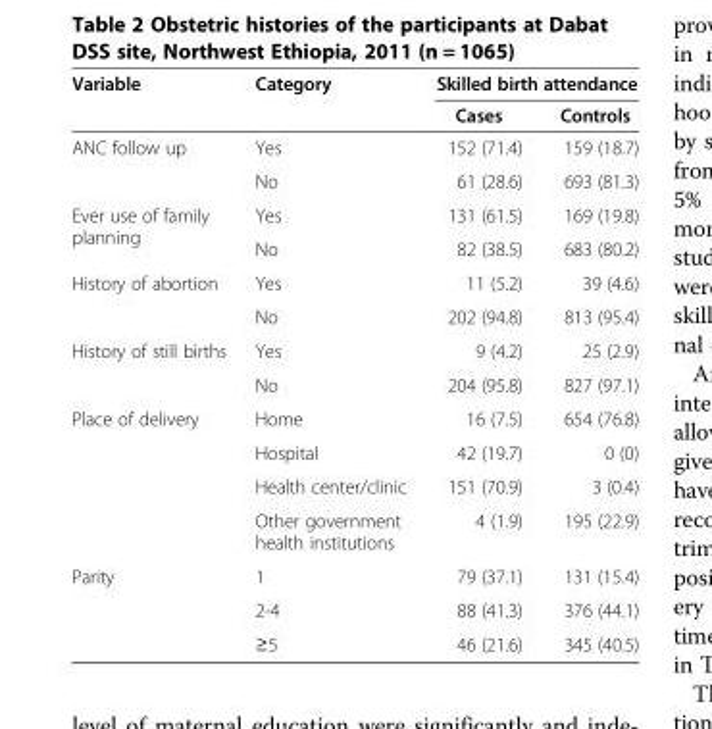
<table><thead><tr><td rowspan="2">Variable</td><td rowspan="2">Category</td><td colspan="2">Skilled birth attendance</td></tr><tr><td>Cases</td><td>Controls</td></tr></thead><tbody><tr><td rowspan="2">ANC follow up</td><td>Yes</td><td>152 (71.4)</td><td>159 (18.7)</td></tr><tr><td>No</td><td>61 (28.6)</td><td>693 (81.3)</td></tr><tr><td rowspan="2">Ever use of family planning</td><td>Yes</td><td>131 (61.5)</td><td>169 (19.8)</td></tr><tr><td>No</td><td>82 (38.5)</td><td>683 (80.2)</td></tr><tr><td rowspan="2">History of abortion</td><td>Yes</td><td>11 (5.2)</td><td>39 (4.6)</td></tr><tr><td>No</td><td>202 (94.8)</td><td>813 (95.4)</td></tr><tr><td rowspan="2">History of still births</td><td>Yes</td><td>9 (4.2)</td><td>25 (2.9)</td></tr><tr><td>No</td><td>204 (95.8)</td><td>827 (97.1)</td></tr><tr><td rowspan="4">Place of delivery</td><td>Home</td><td>16 (7.5)</td><td>654 (76.8)</td></tr><tr><td>Hospital</td><td>42 (19.7)</td><td>0 (0)</td></tr><tr><td>Health center/clinic</td><td>151 (70.9)</td><td>3 (0.4)</td></tr><tr><td>Other government health institutions</td><td>4 (1.9)</td><td>195 (22.9)</td></tr><tr><td rowspan="3">Parity</td><td>1</td><td>79 (37.1)</td><td>131 (15.4)</td></tr><tr><td>2-4</td><td>88 (41.3)</td><td>376 (44.1)</td></tr><tr><td>≥5</td><td>46 (21.6)</td><td>345 (40.5)</td></tr></tbody></table>